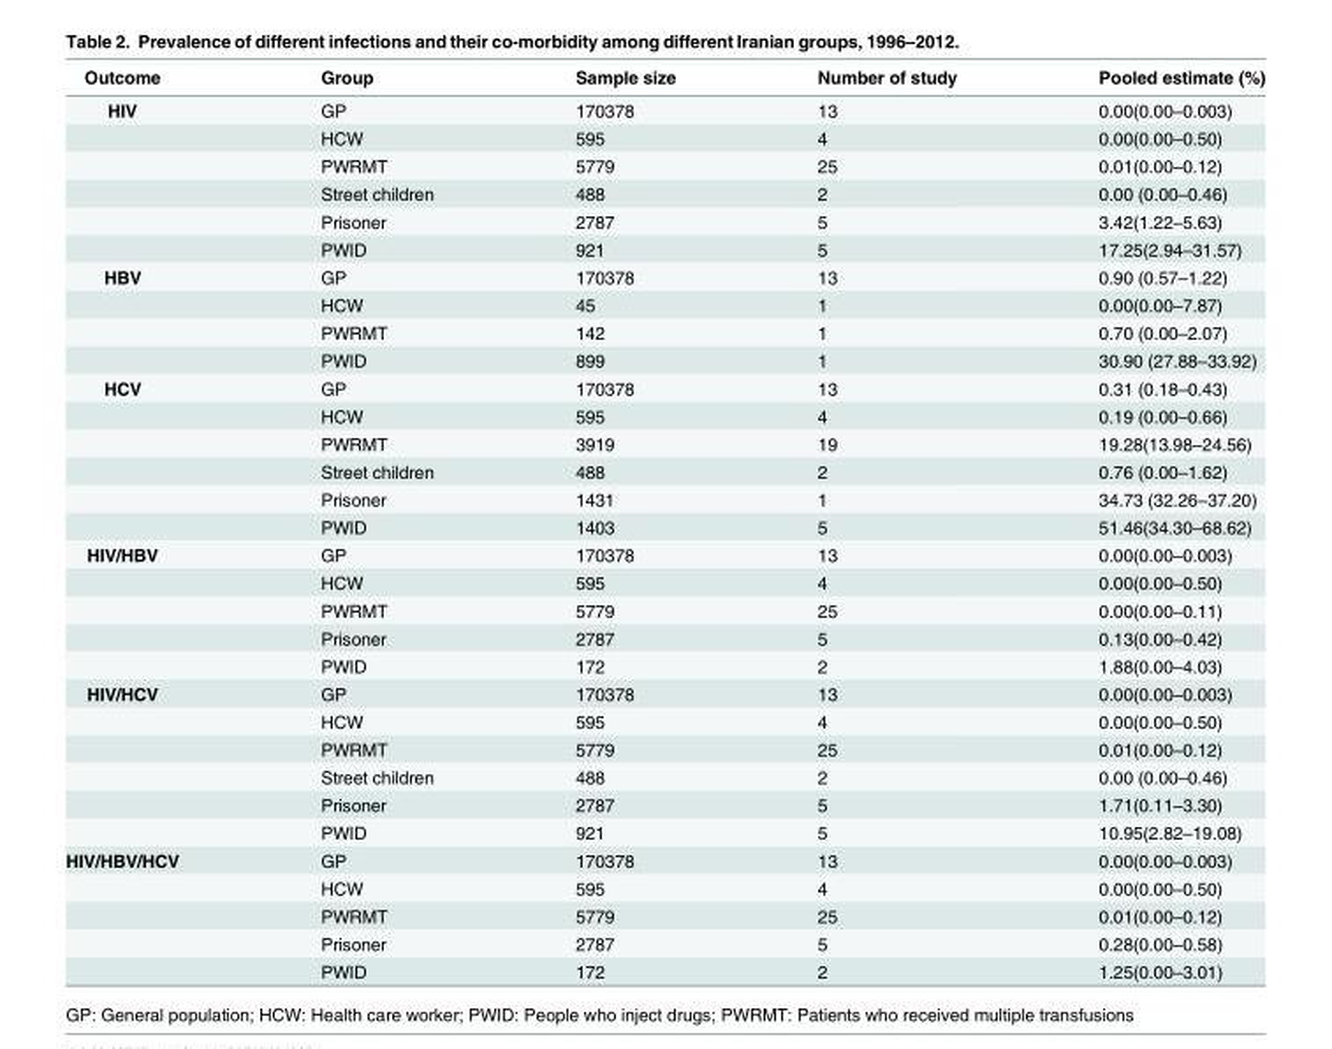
<table><thead><tr><td>Outcome</td><td>Group</td><td>Sample size</td><td>Number of study</td><td>Pooled estimate (%)</td></tr></thead><tbody><tr><td rowspan="6">HIV</td><td>GP</td><td>170378</td><td>13</td><td>0.00(0.00–0.003)</td></tr><tr><td>HCW</td><td>595</td><td>4</td><td>0.00(0.00–0.50)</td></tr><tr><td>PWRMT</td><td>5779</td><td>25</td><td>0.01(0.00–0.12)</td></tr><tr><td>Street children</td><td>488</td><td>2</td><td>0.00 (0.00–0.46)</td></tr><tr><td>Prisoner</td><td>2787</td><td>5</td><td>3.42(1.22–5.63)</td></tr><tr><td>PWID</td><td>921</td><td>5</td><td>17.25(2.94–31.57)</td></tr><tr><td rowspan="4">HBV</td><td>GP</td><td>170378</td><td>13</td><td>0.90 (0.57–1.22)</td></tr><tr><td>HCW</td><td>45</td><td>1</td><td>0.00(0.00–7.87)</td></tr><tr><td>PWRMT</td><td>142</td><td>1</td><td>0.70 (0.00–2.07)</td></tr><tr><td>PWID</td><td>899</td><td>1</td><td>30.90 (27.88–33.92)</td></tr><tr><td rowspan="6">HCV</td><td>GP</td><td>170378</td><td>13</td><td>0.31 (0.18–0.43)</td></tr><tr><td>HCW</td><td>595</td><td>4</td><td>0.19 (0.00–0.66)</td></tr><tr><td>PWRMT</td><td>3919</td><td>19</td><td>19.28(13.98–24.56)</td></tr><tr><td>Street children</td><td>488</td><td>2</td><td>0.76 (0.00–1.62)</td></tr><tr><td>Prisoner</td><td>1431</td><td>1</td><td>34.73 (32.26–37.20)</td></tr><tr><td>PWID</td><td>1403</td><td>5</td><td>51.46(34.30–68.62)</td></tr><tr><td rowspan="5">HIV/HBV</td><td>GP</td><td>170378</td><td>13</td><td>0.00(0.00–0.003)</td></tr><tr><td>HCW</td><td>595</td><td>4</td><td>0.00(0.00–0.50)</td></tr><tr><td>PWRMT</td><td>5779</td><td>25</td><td>0.00(0.00–0.11)</td></tr><tr><td>Prisoner</td><td>2787</td><td>5</td><td>0.13(0.00–0.42)</td></tr><tr><td>PWID</td><td>172</td><td>2</td><td>1.88(0.00–4.03)</td></tr><tr><td rowspan="6">HIV/HCV</td><td>GP</td><td>170378</td><td>13</td><td>0.00(0.00–0.003)</td></tr><tr><td>HCW</td><td>595</td><td>4</td><td>0.00(0.00–0.50)</td></tr><tr><td>PWRMT</td><td>5779</td><td>25</td><td>0.01(0.00–0.12)</td></tr><tr><td>Street children</td><td>488</td><td>2</td><td>0.00 (0.00–0.46)</td></tr><tr><td>Prisoner</td><td>2787</td><td>5</td><td>1.71(0.11–3.30)</td></tr><tr><td>PWID</td><td>921</td><td>5</td><td>10.95(2.82–19.08)</td></tr><tr><td rowspan="5">HIV/HBV/HCV</td><td>GP</td><td>170378</td><td>13</td><td>0.00(0.00–0.003)</td></tr><tr><td>HCW</td><td>595</td><td>4</td><td>0.00(0.00–0.50)</td></tr><tr><td>PWRMT</td><td>5779</td><td>25</td><td>0.01(0.00–0.12)</td></tr><tr><td>Prisoner</td><td>2787</td><td>5</td><td>0.28(0.00–0.58)</td></tr><tr><td>PWID</td><td>172</td><td>2</td><td>1.25(0.00–3.01)</td></tr></tbody></table>